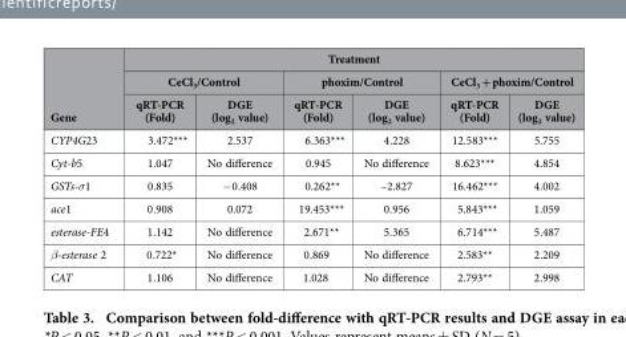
<table><thead><tr><td rowspan="3">Gene</td><td colspan="6">Treatment</td></tr><tr><td colspan="2">CeCl<sub>3</sub>/Control</td><td colspan="2">phoxim/Control</td><td colspan="2">CeCl<sub>3</sub> + phoxim/Control</td></tr><tr><td>qRT-PCR (Fold)</td><td>DGE (log<sub>2</sub> value)</td><td>qRT-PCR (Fold)</td><td>DGE (log<sub>2</sub> value)</td><td>qRT-PCR (Fold)</td><td>DGE (log<sub>2</sub> value)</td></tr></thead><tbody><tr><td>CYP4G23</td><td>3.472***</td><td>2.537</td><td>6.363***</td><td>4.228</td><td>12.583***</td><td>5.755</td></tr><tr><td>Cyt-b5</td><td>1.047</td><td>No difference</td><td>0.945</td><td>No difference</td><td>8.623***</td><td>4.854</td></tr><tr><td>GSTs-σ1</td><td>0.835</td><td>− 0.408</td><td>0.262**</td><td>–2.827</td><td>16.462***</td><td>4.002</td></tr><tr><td>ace1</td><td>0.908</td><td>0.072</td><td>19.453***</td><td>0.956</td><td>5.843***</td><td>1.059</td></tr><tr><td>esterase-FE4</td><td>1.142</td><td>No difference</td><td>2.671**</td><td>5.365</td><td>6.714***</td><td>5.487</td></tr><tr><td>β-esterase 2</td><td>0.722*</td><td>No difference</td><td>0.869</td><td>No difference</td><td>2.583**</td><td>2.209</td></tr><tr><td>CAT</td><td>1.106</td><td>No difference</td><td>1.028</td><td>No difference</td><td>2.793**</td><td>2.998</td></tr></tbody></table>